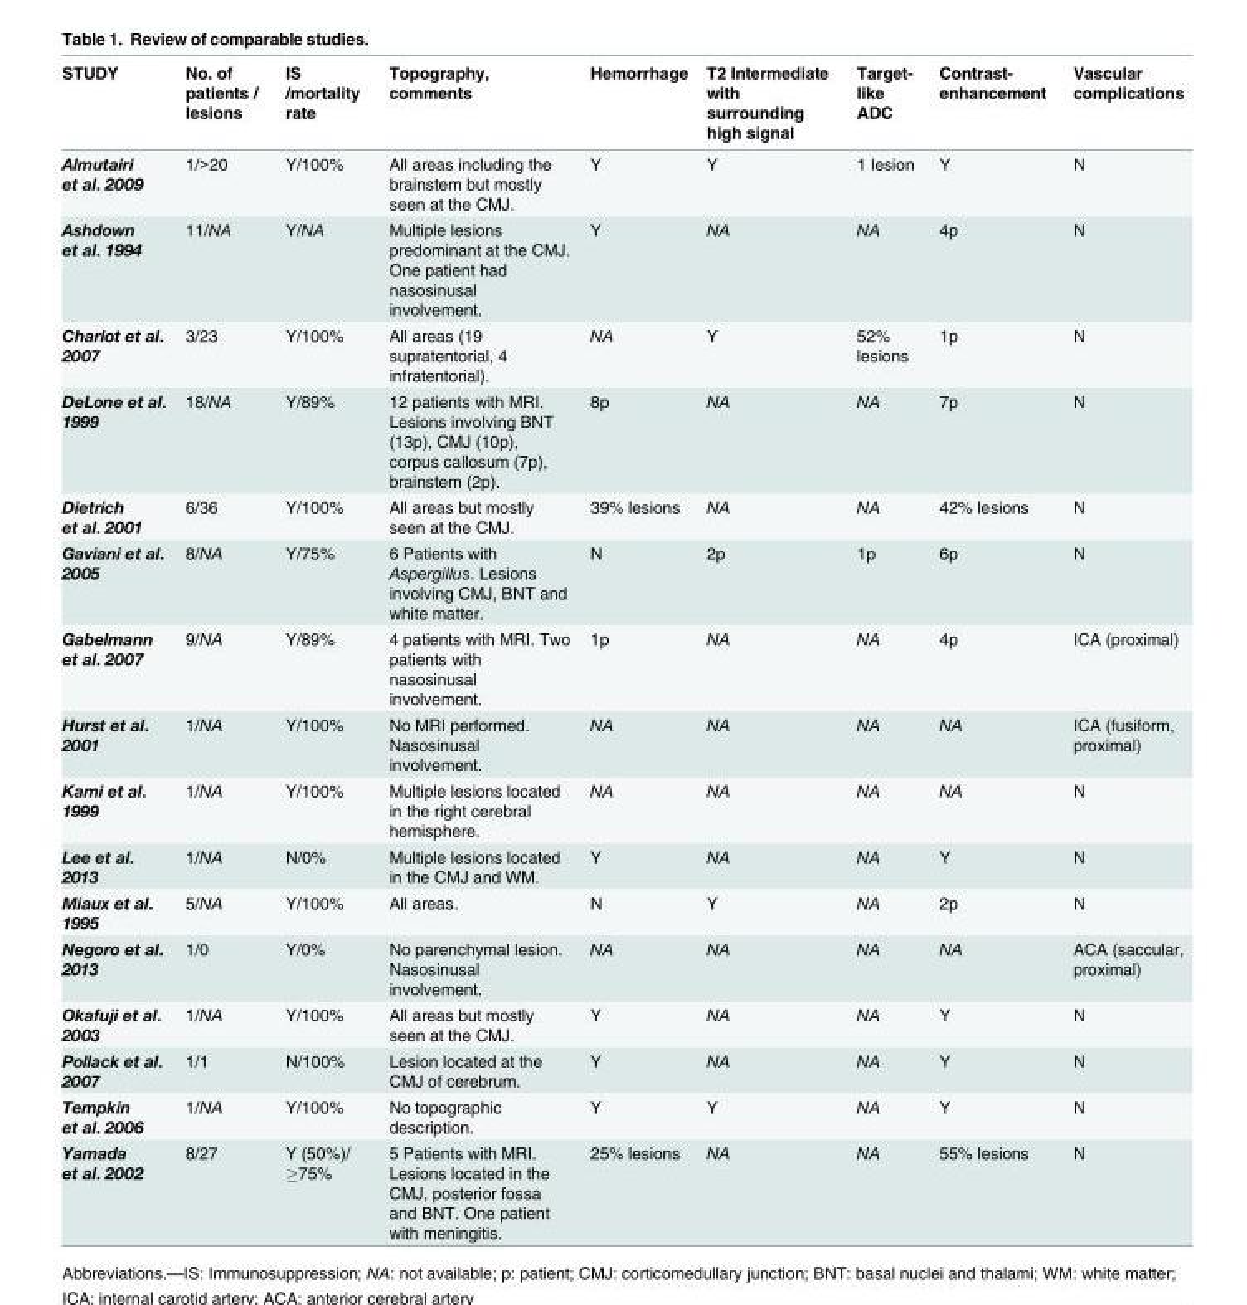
<table><thead><tr><td>STUDY</td><td>No. of patients / lesions</td><td>IS /mortality rate</td><td>Topography, comments</td><td>Hemorrhage</td><td>T2 Intermediate with surrounding high signal</td><td>Target- like ADC</td><td>Contrast- enhancement</td><td>Vascular complications</td></tr></thead><tbody><tr><td>Almutairi et al. 2009</td><td>1/&gt;20</td><td>Y/100%</td><td>All areas including the brainstem but mostly seen at the CMJ.</td><td>Y</td><td>Y</td><td>1 lesion</td><td>Y</td><td>N</td></tr><tr><td>Ashdown et al. 1994</td><td>11/NA</td><td>Y/NA</td><td>Multiple lesions predominant at the CMJ. One patient had nasosinusal involvement.</td><td>Y</td><td>NA</td><td>NA</td><td>4p</td><td>N</td></tr><tr><td>Charlot et al. 2007</td><td>3/23</td><td>Y/100%</td><td>All areas (19 supratentorial, 4 infratentorial).</td><td>NA</td><td>Y</td><td>52% lesions</td><td>1p</td><td>N</td></tr><tr><td>DeLone et al. 1999</td><td>18/NA</td><td>Y/89%</td><td>12 patients with MRI. Lesions involving BNT (13p), CMJ (10p), corpus callosum (7p), brainstem (2p).</td><td>8p</td><td>NA</td><td>NA</td><td>7p</td><td>N</td></tr><tr><td>Dietrich et al. 2001</td><td>6/36</td><td>Y/100%</td><td>All areas but mostly seen at the CMJ.</td><td>39% lesions</td><td>NA</td><td>NA</td><td>42% lesions</td><td>N</td></tr><tr><td>Gaviani et al. 2005</td><td>8/NA</td><td>Y/75%</td><td>6 Patients with Aspergillus. Lesions involving CMJ, BNT and white matter.</td><td>N</td><td>2p</td><td>1p</td><td>6p</td><td>N</td></tr><tr><td>Gabelmann et al. 2007</td><td>9/NA</td><td>Y/89%</td><td>4 patients with MRI. Two patients with nasosinusal involvement.</td><td>1p</td><td>NA</td><td>NA</td><td>4p</td><td>ICA (proximal)</td></tr><tr><td>Hurst et al. 2001</td><td>1/NA</td><td>Y/100%</td><td>No MRI performed. Nasosinusal involvement.</td><td>NA</td><td>NA</td><td>NA</td><td>NA</td><td>ICA (fusiform, proximal)</td></tr><tr><td>Kami et al. 1999</td><td>1/NA</td><td>Y/100%</td><td>Multiple lesions located in the right cerebral hemisphere.</td><td>NA</td><td>NA</td><td>NA</td><td>NA</td><td>N</td></tr><tr><td>Lee et al. 2013</td><td>1/NA</td><td>N/0%</td><td>Multiple lesions located in the CMJ and WM.</td><td>Y</td><td>NA</td><td>NA</td><td>Y</td><td>N</td></tr><tr><td>Miaux et al. 1995</td><td>5/NA</td><td>Y/100%</td><td>All areas.</td><td>N</td><td>Y</td><td>NA</td><td>2p</td><td>N</td></tr><tr><td>Negoro et al. 2013</td><td>1/0</td><td>Y/0%</td><td>No parenchymal lesion. Nasosinusal involvement.</td><td>NA</td><td>NA</td><td>NA</td><td>NA</td><td>ACA (saccular, proximal)</td></tr><tr><td>Okafuji et al. 2003</td><td>1/NA</td><td>Y/100%</td><td>All areas but mostly seen at the CMJ.</td><td>Y</td><td>NA</td><td>NA</td><td>Y</td><td>N</td></tr><tr><td>Pollack et al. 2007</td><td>1/1</td><td>N/100%</td><td>Lesion located at the CMJ of cerebrum.</td><td>Y</td><td>NA</td><td>NA</td><td>Y</td><td>N</td></tr><tr><td>Tempkin et al. 2006</td><td>1/NA</td><td>Y/100%</td><td>No topographic description.</td><td>Y</td><td>Y</td><td>NA</td><td>Y</td><td>N</td></tr><tr><td>Yamada et al. 2002</td><td>8/27</td><td>Y (50%)/ ≥75%</td><td>5 Patients with MRI. Lesions located in the CMJ, posterior fossa and BNT. One patient with meningitis.</td><td>25% lesions</td><td>NA</td><td>NA</td><td>55% lesions</td><td>N</td></tr></tbody></table>